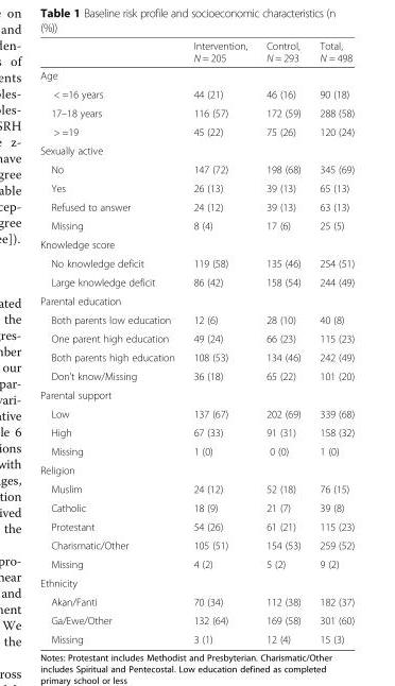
<table><thead><tr><td></td><td>Intervention, N = 205</td><td>Control, N = 293</td><td>Total, N = 498</td></tr></thead><tbody><tr><td colspan="4">Age</td></tr><tr><td>&lt; =16 years</td><td>44 (21)</td><td>46 (16)</td><td>90 (18)</td></tr><tr><td>17–18 years</td><td>116 (57)</td><td>172 (59)</td><td>288 (58)</td></tr><tr><td>&gt; =19</td><td>45 (22)</td><td>75 (26)</td><td>120 (24)</td></tr><tr><td colspan="4">Sexually active</td></tr><tr><td>No</td><td>147 (72)</td><td>198 (68)</td><td>345 (69)</td></tr><tr><td>Yes</td><td>26 (13)</td><td>39 (13)</td><td>65 (13)</td></tr><tr><td>Refused to answer</td><td>24 (12)</td><td>39 (13)</td><td>63 (13)</td></tr><tr><td>Missing</td><td>8 (4)</td><td>17 (6)</td><td>25 (5)</td></tr><tr><td colspan="4">Knowledge score</td></tr><tr><td>No knowledge deficit</td><td>119 (58)</td><td>135 (46)</td><td>254 (51)</td></tr><tr><td>Large knowledge deficit</td><td>86 (42)</td><td>158 (54)</td><td>244 (49)</td></tr><tr><td colspan="4">Parental education</td></tr><tr><td>Both parents low education</td><td>12 (6)</td><td>28 (10)</td><td>40 (8)</td></tr><tr><td>One parent high education</td><td>49 (24)</td><td>66 (23)</td><td>115 (23)</td></tr><tr><td>Both parents high education</td><td>108 (53)</td><td>134 (46)</td><td>242 (49)</td></tr><tr><td>Don’t know/Missing</td><td>36 (18)</td><td>65 (22)</td><td>101 (20)</td></tr><tr><td colspan="4">Parental support</td></tr><tr><td>Low</td><td>137 (67)</td><td>202 (69)</td><td>339 (68)</td></tr><tr><td>High</td><td>67 (33)</td><td>91 (31)</td><td>158 (32)</td></tr><tr><td>Missing</td><td>1 (0)</td><td>0 (0)</td><td>1 (0)</td></tr><tr><td colspan="4">Religion</td></tr><tr><td>Muslim</td><td>24 (12)</td><td>52 (18)</td><td>76 (15)</td></tr><tr><td>Catholic</td><td>18 (9)</td><td>21 (7)</td><td>39 (8)</td></tr><tr><td>Protestant</td><td>54 (26)</td><td>61 (21)</td><td>115 (23)</td></tr><tr><td>Charismatic/Other</td><td>105 (51)</td><td>154 (53)</td><td>259 (52)</td></tr><tr><td>Missing</td><td>4 (2)</td><td>5 (2)</td><td>9 (2)</td></tr><tr><td colspan="4">Ethnicity</td></tr><tr><td>Akan/Fanti</td><td>70 (34)</td><td>112 (38)</td><td>182 (37)</td></tr><tr><td>Ga/Ewe/Other</td><td>132 (64)</td><td>169 (58)</td><td>301 (60)</td></tr><tr><td>Missing</td><td>3 (1)</td><td>12 (4)</td><td>15 (3)</td></tr></tbody></table>